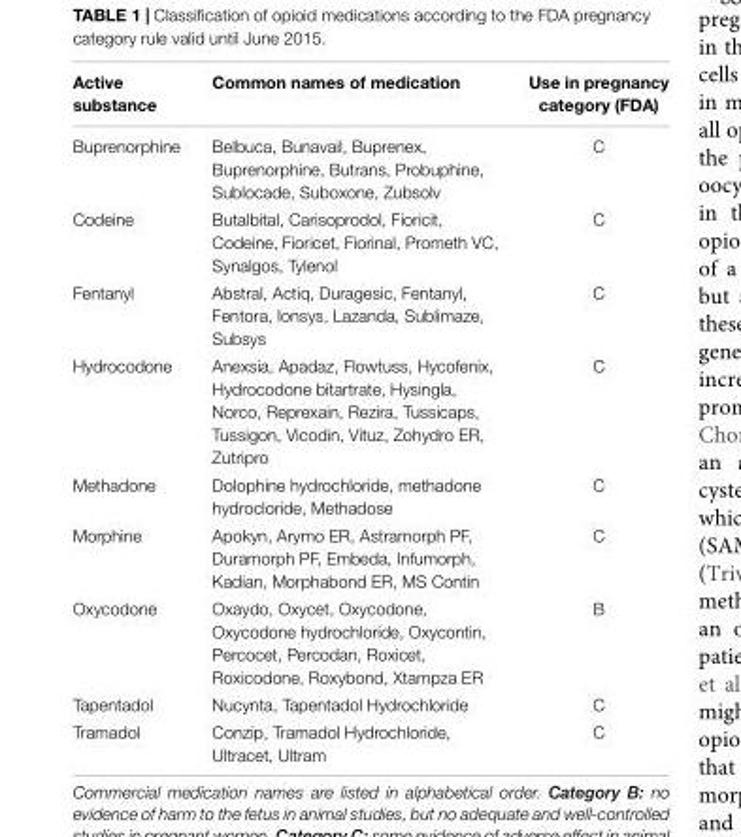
<table><thead><tr><td>Active substance</td><td>Common names of medication</td><td>Use in pregnancy category (FDA)</td></tr></thead><tbody><tr><td>Buprenorphine</td><td>Belbuca, Bunavail, Buprenex, Buprenorphine, Butrans, Probuphine, Sublocade, Suboxone, Zubsolv</td><td>C</td></tr><tr><td>Codeine</td><td>Butalbital, Carisoprodol, Fioricit, Codeine, Fioricet, Fiorinal, Prometh VC, Synalgos, Tylenol</td><td>C</td></tr><tr><td>Fentanyl</td><td>Abstral, Actiq, Duragesic, Fentanyl, Fentora, Ionsys, Lazanda, Sublimaze, Subsys</td><td>C</td></tr><tr><td>Hydrocodone</td><td>Anexsia, Apadaz, Flowtuss, Hycofenix, Hydrocodone bitartrate, Hysingla, Norco, Reprexain, Rezira, Tussicaps, Tussigon, Vicodin, Vituz, Zohydro ER, Zutripro</td><td>C</td></tr><tr><td>Methadone</td><td>Dolophine hydrochloride, methadone hydrocloride, Methadose</td><td>C</td></tr><tr><td>Morphine</td><td>Apokyn, Arymo ER, Astramorph PF, Duramorph PF, Embeda, Infumorph, Kadian, Morphabond ER, MS Contin</td><td>C</td></tr><tr><td>Oxycodone</td><td>Oxaydo, Oxycet, Oxycodone, Oxycodone hydrochloride, Oxycontin, Percocet, Percodan, Roxicet, Roxicodone, Roxybond, Xtampza ER</td><td>B</td></tr><tr><td>Tapentadol</td><td>Nucynta, Tapentadol Hydrochloride</td><td>C</td></tr><tr><td>Tramadol</td><td>Conzip, Tramadol Hydrochloride, Ultracet, Ultram</td><td>C</td></tr></tbody></table>